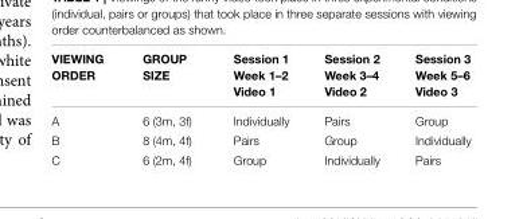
<table><thead><tr><td>VIEWING ORDER</td><td>GROUP SIZE</td><td>Session 1 Week 1–2 Video 1</td><td>Session 2 Week 3–4 Video 2</td><td>Session 3 Week 5–6 Video 3</td></tr></thead><tbody><tr><td>A</td><td>6 (3m, 3f)</td><td>Individually</td><td>Pairs</td><td>Group</td></tr><tr><td>B</td><td>8 (4m, 4f)</td><td>Pairs</td><td>Group</td><td>Individually</td></tr><tr><td>C</td><td>6 (2m, 4f)</td><td>Group</td><td>Individually</td><td>Pairs</td></tr></tbody></table>